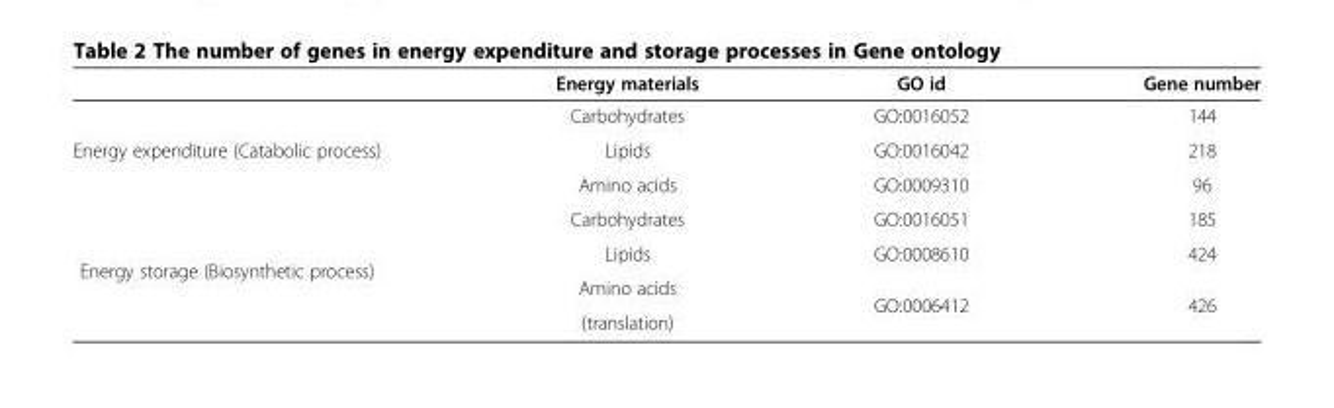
<table><thead><tr><td></td><td>Energy materials</td><td>GO id</td><td>Gene number</td></tr></thead><tbody><tr><td rowspan="3">Energy expenditure (Catabolic process)</td><td>Carbohydrates</td><td>GO:0016052</td><td>144</td></tr><tr><td>Lipids</td><td>GO:0016042</td><td>218</td></tr><tr><td>Amino acids</td><td>GO:0009310</td><td>96</td></tr><tr><td rowspan="4">Energy storage (Biosynthetic process)</td><td>Carbohydrates</td><td>GO:0016051</td><td>185</td></tr><tr><td>Lipids</td><td>GO:0008610</td><td>424</td></tr><tr><td>Amino acids</td><td rowspan="2">GO:0006412</td><td rowspan="2">426</td></tr><tr><td>(translation)</td></tr></tbody></table>